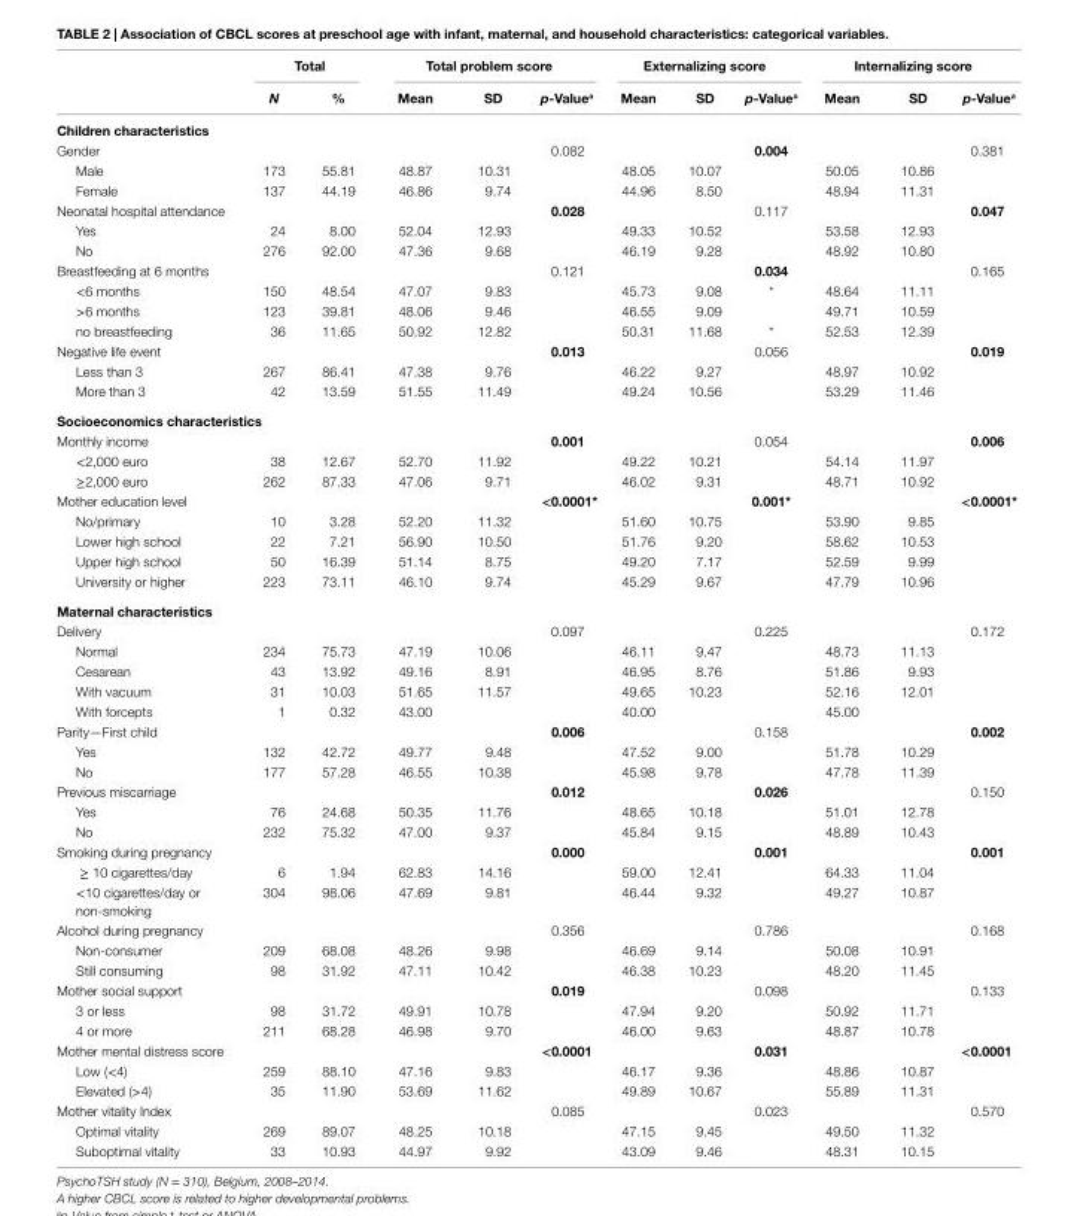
<table><thead><tr><td rowspan="2"></td><td colspan="2">Total</td><td colspan="3">Total problem score</td><td colspan="3">externalizing score</td><td colspan="3">internalizing score</td></tr><tr><td>N</td><td>%</td><td>Mean</td><td>sD</td><td>p-Value<sup>a</sup></td><td>Mean</td><td>sD</td><td>p-Value<sup>a</sup></td><td>Mean</td><td>sD</td><td>p-Value<sup>a</sup></td></tr></thead><tbody><tr><td colspan="12">children characteristics</td></tr><tr><td>Gender</td><td></td><td></td><td></td><td></td><td>0.082</td><td></td><td></td><td>0.004</td><td></td><td></td><td>0.381</td></tr><tr><td>Male</td><td>173</td><td>55.81</td><td>48.87</td><td>10.31</td><td></td><td>48.05</td><td>10.07</td><td></td><td>50.05</td><td>10.86</td><td></td></tr><tr><td>Female</td><td>137</td><td>44.19</td><td>46.86</td><td>9.74</td><td></td><td>44.96</td><td>8.50</td><td></td><td>48.94</td><td>11.31</td><td></td></tr><tr><td>Neonatal hospital attendance</td><td></td><td></td><td></td><td></td><td>0.028</td><td></td><td></td><td>0.117</td><td></td><td></td><td>0.047</td></tr><tr><td>Yes</td><td>24</td><td>8.00</td><td>52.04</td><td>12.93</td><td></td><td>49.33</td><td>10.52</td><td></td><td>53.58</td><td>12.93</td><td></td></tr><tr><td>No</td><td>276</td><td>92.00</td><td>47.36</td><td>9.68</td><td></td><td>46.19</td><td>9.28</td><td></td><td>48.92</td><td>10.80</td><td></td></tr><tr><td>Breastfeeding at 6 months</td><td></td><td></td><td></td><td></td><td>0.121</td><td></td><td></td><td>0.034</td><td></td><td></td><td>0.165</td></tr><tr><td>&lt;6 months</td><td>150</td><td>48.54</td><td>47.07</td><td>9.83</td><td></td><td>45.73</td><td>9.08</td><td>*</td><td>48.64</td><td>11.11</td><td></td></tr><tr><td>&gt;6 months</td><td>123</td><td>39.81</td><td>48.06</td><td>9.46</td><td></td><td>46.55</td><td>9.09</td><td></td><td>49.71</td><td>10.59</td><td></td></tr><tr><td>no breastfeeding</td><td>36</td><td>11.65</td><td>50.92</td><td>12.82</td><td></td><td>50.31</td><td>11.68</td><td>*</td><td>52.53</td><td>12.39</td><td></td></tr><tr><td>Negative life event</td><td></td><td></td><td></td><td></td><td>0.013</td><td></td><td></td><td>0.056</td><td></td><td></td><td>0.019</td></tr><tr><td>Less than 3</td><td>267</td><td>86.41</td><td>47.38</td><td>9.76</td><td></td><td>46.22</td><td>9.27</td><td></td><td>48.97</td><td>10.92</td><td></td></tr><tr><td>More than 3</td><td>42</td><td>13.59</td><td>51.55</td><td>11.49</td><td></td><td>49.24</td><td>10.56</td><td></td><td>53.29</td><td>11.46</td><td></td></tr><tr><td colspan="12">socioeconomics characteristics</td></tr><tr><td>Monthly income</td><td></td><td></td><td></td><td></td><td>0.001</td><td></td><td></td><td>0.054</td><td></td><td></td><td>0.006</td></tr><tr><td>&lt;2,000 euro</td><td>38</td><td>12.67</td><td>52.70</td><td>11.92</td><td></td><td>49.22</td><td>10.21</td><td></td><td>54.14</td><td>11.97</td><td></td></tr><tr><td>≥2,000 euro</td><td>262</td><td>87.33</td><td>47.06</td><td>9.71</td><td></td><td>46.02</td><td>9.31</td><td></td><td>48.71</td><td>10.92</td><td></td></tr><tr><td>Mother education level</td><td></td><td></td><td></td><td></td><td>&lt;0.0001*</td><td></td><td></td><td>0.001*</td><td></td><td></td><td>&lt;0.0001*</td></tr><tr><td>No/primary</td><td>10</td><td>3.28</td><td>52.20</td><td>11.32</td><td></td><td>51.60</td><td>10.75</td><td></td><td>53.90</td><td>9.85</td><td></td></tr><tr><td>Lower high school</td><td>22</td><td>7.21</td><td>56.90</td><td>10.50</td><td></td><td>51.76</td><td>9.20</td><td></td><td>58.62</td><td>10.53</td><td></td></tr><tr><td>Upper high school</td><td>50</td><td>16.39</td><td>51.14</td><td>8.75</td><td></td><td>49.20</td><td>7.17</td><td></td><td>52.59</td><td>9.99</td><td></td></tr><tr><td>University or higher</td><td>223</td><td>73.11</td><td>46.10</td><td>9.74</td><td></td><td>45.29</td><td>9.67</td><td></td><td>47.79</td><td>10.96</td><td></td></tr><tr><td colspan="12">Maternal characteristics</td></tr><tr><td>Delivery</td><td></td><td></td><td></td><td></td><td>0.097</td><td></td><td></td><td>0.225</td><td></td><td></td><td>0.172</td></tr><tr><td>Normal</td><td>234</td><td>75.73</td><td>47.19</td><td>10.06</td><td></td><td>46.11</td><td>9.47</td><td></td><td>48.73</td><td>11.13</td><td></td></tr><tr><td>Cesarean</td><td>43</td><td>13.92</td><td>49.16</td><td>8.91</td><td></td><td>46.95</td><td>8.76</td><td></td><td>51.86</td><td>9.93</td><td></td></tr><tr><td>With vacuum</td><td>31</td><td>10.03</td><td>51.65</td><td>11.57</td><td></td><td>49.65</td><td>10.23</td><td></td><td>52.16</td><td>12.01</td><td></td></tr><tr><td>With forcepts</td><td>1</td><td>0.32</td><td>43.00</td><td></td><td></td><td>40.00</td><td></td><td></td><td>45.00</td><td></td><td></td></tr><tr><td>Parity—First child</td><td></td><td></td><td></td><td></td><td>0.006</td><td></td><td></td><td>0.158</td><td></td><td></td><td>0.002</td></tr><tr><td>Yes</td><td>132</td><td>42.72</td><td>49.77</td><td>9.48</td><td></td><td>47.52</td><td>9.00</td><td></td><td>51.78</td><td>10.29</td><td></td></tr><tr><td>No</td><td>177</td><td>57.28</td><td>46.55</td><td>10.38</td><td></td><td>45.98</td><td>9.78</td><td></td><td>47.78</td><td>11.39</td><td></td></tr><tr><td>Previous miscarriage</td><td></td><td></td><td></td><td></td><td>0.012</td><td></td><td></td><td>0.026</td><td></td><td></td><td>0.150</td></tr><tr><td>Yes</td><td>76</td><td>24.68</td><td>50.35</td><td>11.76</td><td></td><td>48.65</td><td>10.18</td><td></td><td>51.01</td><td>12.78</td><td></td></tr><tr><td>No</td><td>232</td><td>75.32</td><td>47.00</td><td>9.37</td><td></td><td>45.84</td><td>9.15</td><td></td><td>48.89</td><td>10.43</td><td></td></tr><tr><td>Smoking during pregnancy</td><td></td><td></td><td></td><td></td><td>0.000</td><td></td><td></td><td>0.001</td><td></td><td></td><td>0.001</td></tr><tr><td>≥ 10 cigarettes/day</td><td>6</td><td>1.94</td><td>62.83</td><td>14.16</td><td></td><td>59.00</td><td>12.41</td><td></td><td>64.33</td><td>11.04</td><td></td></tr><tr><td>&lt;10 cigarettes/day or non-smoking</td><td>304</td><td>98.06</td><td>47.69</td><td>9.81</td><td></td><td>46.44</td><td>9.32</td><td></td><td>49.27</td><td>10.87</td><td></td></tr><tr><td>Alcohol during pregnancy</td><td></td><td></td><td></td><td></td><td>0.356</td><td></td><td></td><td>0.786</td><td></td><td></td><td>0.168</td></tr><tr><td>Non-consumer</td><td>209</td><td>68.08</td><td>48.26</td><td>9.98</td><td></td><td>46.69</td><td>9.14</td><td></td><td>50.08</td><td>10.91</td><td></td></tr><tr><td>Still consuming</td><td>98</td><td>31.92</td><td>47.11</td><td>10.42</td><td></td><td>46.38</td><td>10.23</td><td></td><td>48.20</td><td>11.45</td><td></td></tr><tr><td>Mother social support</td><td></td><td></td><td></td><td></td><td>0.019</td><td></td><td></td><td>0.098</td><td></td><td></td><td>0.133</td></tr><tr><td>3 or less</td><td>98</td><td>31.72</td><td>49.91</td><td>10.78</td><td></td><td>47.94</td><td>9.20</td><td></td><td>50.92</td><td>11.71</td><td></td></tr><tr><td>4 or more</td><td>211</td><td>68.28</td><td>46.98</td><td>9.70</td><td></td><td>46.00</td><td>9.63</td><td></td><td>48.87</td><td>10.78</td><td></td></tr><tr><td>Mother mental distress score</td><td></td><td></td><td></td><td></td><td>&lt;0.0001</td><td></td><td></td><td>0.031</td><td></td><td></td><td>&lt;0.0001</td></tr><tr><td>Low (&lt;4)</td><td>259</td><td>88.10</td><td>47.16</td><td>9.83</td><td></td><td>46.17</td><td>9.36</td><td></td><td>48.86</td><td>10.87</td><td></td></tr><tr><td>Elevated (&gt;4)</td><td>35</td><td>11.90</td><td>53.69</td><td>11.62</td><td></td><td>49.89</td><td>10.67</td><td></td><td>55.89</td><td>11.31</td><td></td></tr><tr><td>Mother vitality Index</td><td></td><td></td><td></td><td></td><td>0.085</td><td></td><td></td><td>0.023</td><td></td><td></td><td>0.570</td></tr><tr><td>Optimal vitality</td><td>269</td><td>89.07</td><td>48.25</td><td>10.18</td><td></td><td>47.15</td><td>9.45</td><td></td><td>49.50</td><td>11.32</td><td></td></tr><tr><td>Suboptimal vitality</td><td>33</td><td>10.93</td><td>44.97</td><td>9.92</td><td></td><td>43.09</td><td>9.46</td><td></td><td>48.31</td><td>10.15</td><td></td></tr></tbody></table>